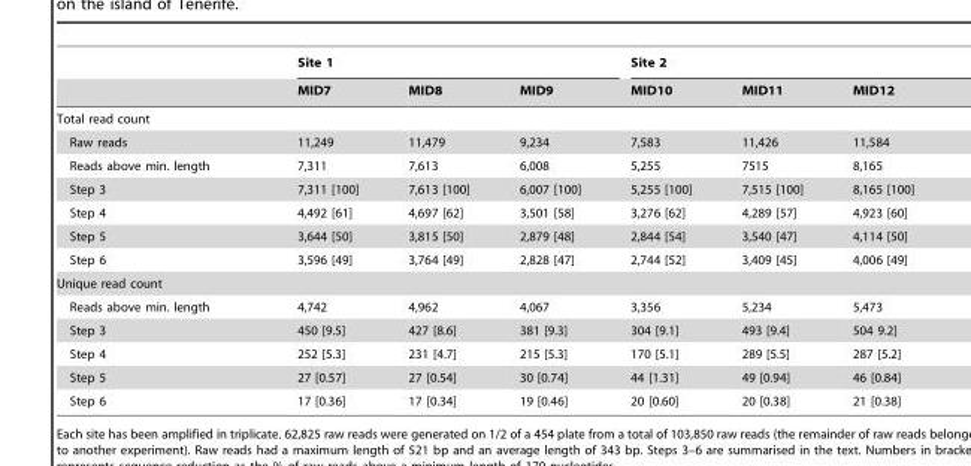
<table><thead><tr><td rowspan="2"></td><td colspan="3">Site 1</td><td colspan="3">Site 2</td></tr><tr><td>MID7</td><td>MID8</td><td>MID9</td><td>MID10</td><td>MID11</td><td>MID12</td></tr></thead><tbody><tr><td colspan="7">Total read count</td></tr><tr><td>Raw reads</td><td>11,249</td><td>11,479</td><td>9,234</td><td>7,583</td><td>11,426</td><td>11,584</td></tr><tr><td>Reads above min. length</td><td>7,311</td><td>7,613</td><td>6,008</td><td>5,255</td><td>7515</td><td>8,165</td></tr><tr><td>Step 3</td><td>7,311 [100]</td><td>7,613 [100]</td><td>6,007 [100]</td><td>5,255 [100]</td><td>7,515 [100]</td><td>8,165 [100]</td></tr><tr><td>Step 4</td><td>4,492 [61]</td><td>4,697 [62]</td><td>3,501 [58]</td><td>3,276 [62]</td><td>4,289 [57]</td><td>4,923 [60]</td></tr><tr><td>Step 5</td><td>3,644 [50]</td><td>3,815 [50]</td><td>2,879 [48]</td><td>2,844 [54]</td><td>3,540 [47]</td><td>4,114 [50]</td></tr><tr><td>Step 6</td><td>3,596 [49]</td><td>3,764 [49]</td><td>2,828 [47]</td><td>2,744 [52]</td><td>3,409 [45]</td><td>4,006 [49]</td></tr><tr><td colspan="7">Unique read count</td></tr><tr><td>Reads above min. length</td><td>4,742</td><td>4,962</td><td>4,067</td><td>3,356</td><td>5,234</td><td>5,473</td></tr><tr><td>Step 3</td><td>450 [9.5]</td><td>427 [8.6]</td><td>381 [9.3]</td><td>304 [9.1]</td><td>493 [9.4]</td><td>504 9.2]</td></tr><tr><td>Step 4</td><td>252 [5.3]</td><td>231 [4.7]</td><td>215 [5.3]</td><td>170 [5.1]</td><td>289 [5.5]</td><td>287 [5.2]</td></tr><tr><td>Step 5</td><td>27 [0.57]</td><td>27 [0.54]</td><td>30 [0.74]</td><td>44 [1.31]</td><td>49 [0.94]</td><td>46 [0.84]</td></tr><tr><td>Step 6</td><td>17 [0.36]</td><td>17 [0.34]</td><td>19 [0.46]</td><td>20 [0.60]</td><td>20 [0.38]</td><td>21 [0.38]</td></tr></tbody></table>